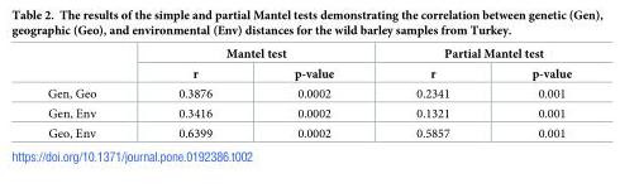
<table><thead><tr><td rowspan="2"></td><td colspan="2">Mantel test</td><td colspan="2">Partial Mantel test</td></tr><tr><td>r</td><td>p-value</td><td>r</td><td>p-value</td></tr></thead><tbody><tr><td>Gen, Geo</td><td>0.3876</td><td>0.0002</td><td>0.2341</td><td>0.001</td></tr><tr><td>Gen, Env</td><td>0.3416</td><td>0.0002</td><td>0.1321</td><td>0.001</td></tr><tr><td>Geo, Env</td><td>0.6399</td><td>0.0002</td><td>0.5857</td><td>0.001</td></tr></tbody></table>